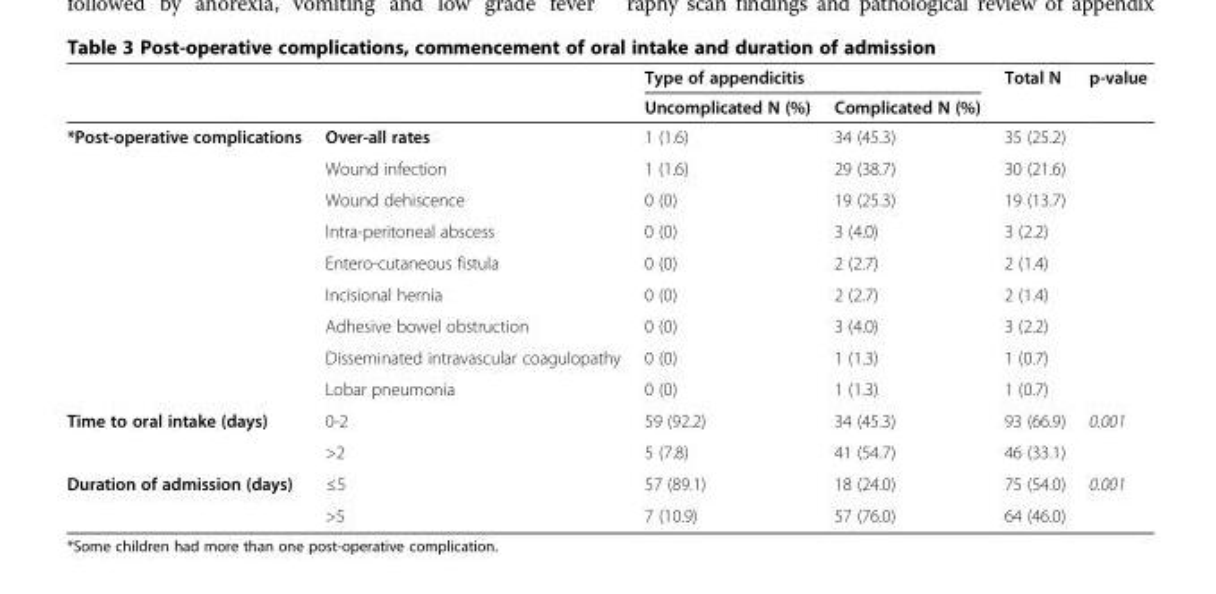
<table><thead><tr><td rowspan="2"></td><td rowspan="2"></td><td colspan="2">Type of appendicitis</td><td rowspan="2">Total N</td><td rowspan="2">p-value</td></tr><tr><td>Uncomplicated N (%)</td><td>Complicated N (%)</td></tr></thead><tbody><tr><td rowspan="9">*Post-operative complications</td><td>Over-all rates</td><td>1 (1.6)</td><td>34 (45.3)</td><td>35 (25.2)</td><td rowspan="9"></td></tr><tr><td>Wound infection</td><td>1 (1.6)</td><td>29 (38.7)</td><td>30 (21.6)</td></tr><tr><td>Wound dehiscence</td><td>0 (0)</td><td>19 (25.3)</td><td>19 (13.7)</td></tr><tr><td>Intra-peritoneal abscess</td><td>0 (0)</td><td>3 (4.0)</td><td>3 (2.2)</td></tr><tr><td>Entero-cutaneous fistula</td><td>0 (0)</td><td>2 (2.7)</td><td>2 (1.4)</td></tr><tr><td>Incisional hernia</td><td>0 (0)</td><td>2 (2.7)</td><td>2 (1.4)</td></tr><tr><td>Adhesive bowel obstruction</td><td>0 (0)</td><td>3 (4.0)</td><td>3 (2.2)</td></tr><tr><td>Disseminated intravascular coagulopathy</td><td>0 (0)</td><td>1 (1.3)</td><td>1 (0.7)</td></tr><tr><td>Lobar pneumonia</td><td>0 (0)</td><td>1 (1.3)</td><td>1 (0.7)</td></tr><tr><td rowspan="2">Time to oral intake (days)</td><td>0-2</td><td>59 (92.2)</td><td>34 (45.3)</td><td>93 (66.9)</td><td>0.001</td></tr><tr><td>&gt;2</td><td>5 (7.8)</td><td>41 (54.7)</td><td>46 (33.1)</td><td></td></tr><tr><td rowspan="2">Duration of admission (days)</td><td>≤5</td><td>57 (89.1)</td><td>18 (24.0)</td><td>75 (54.0)</td><td rowspan="2">0.001</td></tr><tr><td>&gt;5</td><td>7 (10.9)</td><td>57 (76.0)</td><td>64 (46.0)</td></tr></tbody></table>